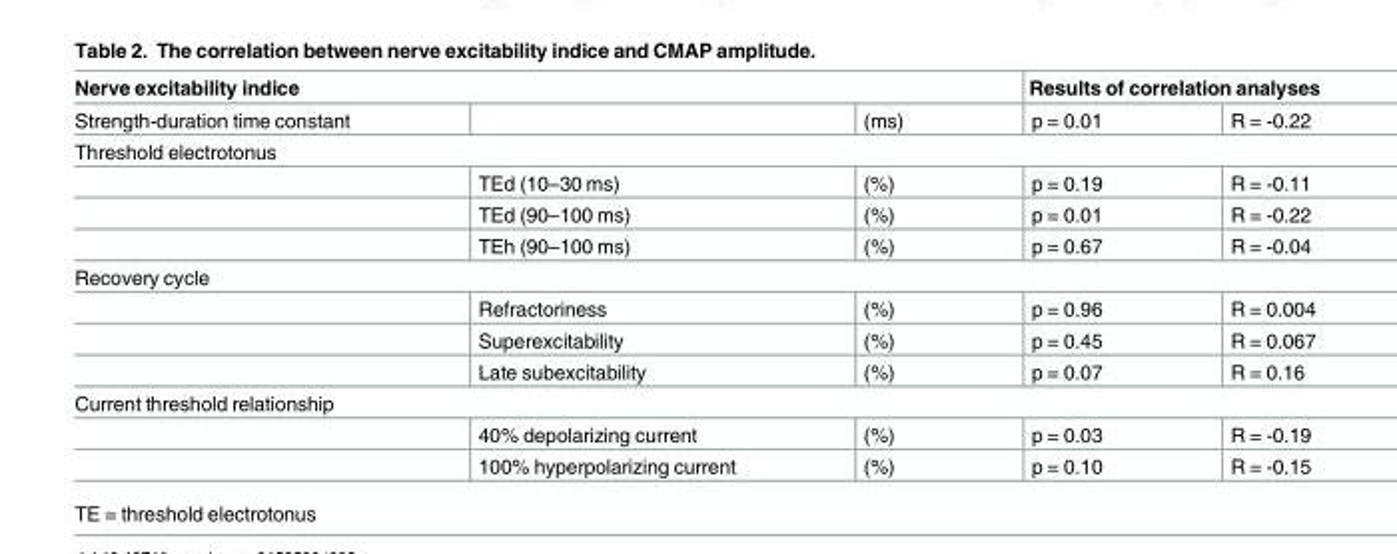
<table><thead><tr><td colspan="3">Nerve excitability indice</td><td colspan="2">Results of correlation analyses</td></tr><tr><td>Strength-duration time constant</td><td></td><td>(ms)</td><td>p = 0.01</td><td>R = -0.22</td></tr></thead><tbody><tr><td colspan="5">Threshold electrotonus</td></tr><tr><td></td><td>TEd (10–30 ms)</td><td>(%)</td><td>p = 0.19</td><td>R = -0.11</td></tr><tr><td></td><td>TEd (90–100 ms)</td><td>(%)</td><td>p = 0.01</td><td>R = -0.22</td></tr><tr><td></td><td>TEh (90–100 ms)</td><td>(%)</td><td>p = 0.67</td><td>R = -0.04</td></tr><tr><td colspan="5">Recovery cycle</td></tr><tr><td></td><td>Refractoriness</td><td>(%)</td><td>p = 0.96</td><td>R = 0.004</td></tr><tr><td></td><td>Superexcitability</td><td>(%)</td><td>p = 0.45</td><td>R = 0.067</td></tr><tr><td></td><td>Late subexcitability</td><td>(%)</td><td>p = 0.07</td><td>R = 0.16</td></tr><tr><td colspan="5">Current threshold relationship</td></tr><tr><td></td><td>40% depolarizing current</td><td>(%)</td><td>p = 0.03</td><td>R = -0.19</td></tr><tr><td></td><td>100% hyperpolarizing current</td><td>(%)</td><td>p = 0.10</td><td>R = -0.15</td></tr></tbody></table>